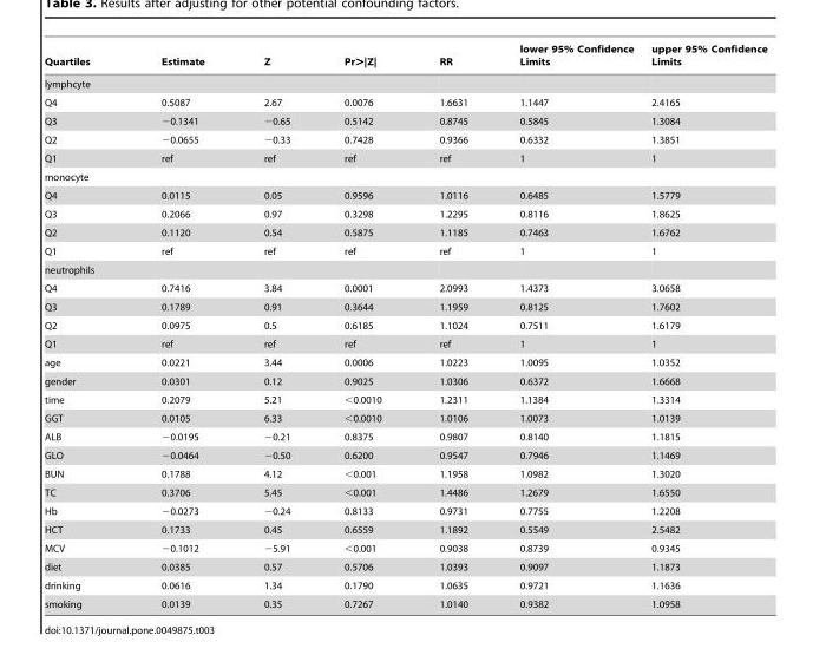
<table><thead><tr><td>Quartiles</td><td>Estimate</td><td>Z</td><td>Pr&gt;|Z|</td><td>RR</td><td>lower 95% Confidence Limits</td><td>upper 95% Confidence Limits</td></tr></thead><tbody><tr><td colspan="7">lymphcyte</td></tr><tr><td>Q4</td><td>0.5087</td><td>2.67</td><td>0.0076</td><td>1.6631</td><td>1.1447</td><td>2.4165</td></tr><tr><td>Q3</td><td>−0.1341</td><td>−0.65</td><td>0.5142</td><td>0.8745</td><td>0.5845</td><td>1.3084</td></tr><tr><td>Q2</td><td>−0.0655</td><td>−0.33</td><td>0.7428</td><td>0.9366</td><td>0.6332</td><td>1.3851</td></tr><tr><td>Q1</td><td>ref</td><td>ref</td><td>ref</td><td>ref</td><td>1</td><td>1</td></tr><tr><td colspan="7">monocyte</td></tr><tr><td>Q4</td><td>0.0115</td><td>0.05</td><td>0.9596</td><td>1.0116</td><td>0.6485</td><td>1.5779</td></tr><tr><td>Q3</td><td>0.2066</td><td>0.97</td><td>0.3298</td><td>1.2295</td><td>0.8116</td><td>1.8625</td></tr><tr><td>Q2</td><td>0.1120</td><td>0.54</td><td>0.5875</td><td>1.1185</td><td>0.7463</td><td>1.6762</td></tr><tr><td>Q1</td><td>ref</td><td>ref</td><td>ref</td><td>ref</td><td>1</td><td>1</td></tr><tr><td colspan="7">neutrophils</td></tr><tr><td>Q4</td><td>0.7416</td><td>3.84</td><td>0.0001</td><td>2.0993</td><td>1.4373</td><td>3.0658</td></tr><tr><td>Q3</td><td>0.1789</td><td>0.91</td><td>0.3644</td><td>1.1959</td><td>0.8125</td><td>1.7602</td></tr><tr><td>Q2</td><td>0.0975</td><td>0.5</td><td>0.6185</td><td>1.1024</td><td>0.7511</td><td>1.6179</td></tr><tr><td>Q1</td><td>ref</td><td>ref</td><td>ref</td><td>ref</td><td>1</td><td>1</td></tr><tr><td>age</td><td>0.0221</td><td>3.44</td><td>0.0006</td><td>1.0223</td><td>1.0095</td><td>1.0352</td></tr><tr><td>gender</td><td>0.0301</td><td>0.12</td><td>0.9025</td><td>1.0306</td><td>0.6372</td><td>1.6668</td></tr><tr><td>time</td><td>0.2079</td><td>5.21</td><td>&lt;0.0010</td><td>1.2311</td><td>1.1384</td><td>1.3314</td></tr><tr><td>GGT</td><td>0.0105</td><td>6.33</td><td>&lt;0.0010</td><td>1.0106</td><td>1.0073</td><td>1.0139</td></tr><tr><td>ALB</td><td>−0.0195</td><td>−0.21</td><td>0.8375</td><td>0.9807</td><td>0.8140</td><td>1.1815</td></tr><tr><td>GLO</td><td>−0.0464</td><td>−0.50</td><td>0.6200</td><td>0.9547</td><td>0.7946</td><td>1.1469</td></tr><tr><td>BUN</td><td>0.1788</td><td>4.12</td><td>&lt;0.001</td><td>1.1958</td><td>1.0982</td><td>1.3020</td></tr><tr><td>TC</td><td>0.3706</td><td>5.45</td><td>&lt;0.001</td><td>1.4486</td><td>1.2679</td><td>1.6550</td></tr><tr><td>Hb</td><td>−0.0273</td><td>−0.24</td><td>0.8133</td><td>0.9731</td><td>0.7755</td><td>1.2208</td></tr><tr><td>HCT</td><td>0.1733</td><td>0.45</td><td>0.6559</td><td>1.1892</td><td>0.5549</td><td>2.5482</td></tr><tr><td>MCV</td><td>−0.1012</td><td>−5.91</td><td>&lt;0.001</td><td>0.9038</td><td>0.8739</td><td>0.9345</td></tr><tr><td>diet</td><td>0.0385</td><td>0.57</td><td>0.5706</td><td>1.0393</td><td>0.9097</td><td>1.1873</td></tr><tr><td>drinking</td><td>0.0616</td><td>1.34</td><td>0.1790</td><td>1.0635</td><td>0.9721</td><td>1.1636</td></tr><tr><td>smoking</td><td>0.0139</td><td>0.35</td><td>0.7267</td><td>1.0140</td><td>0.9382</td><td>1.0958</td></tr></tbody></table>